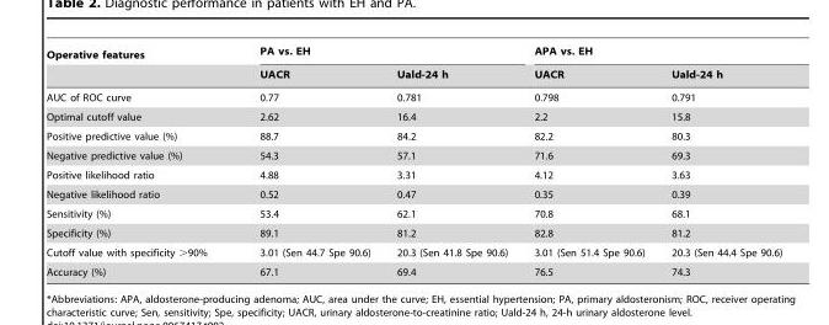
<table><thead><tr><td rowspan="2">Operative features</td><td colspan="2">PA vs. EH</td><td colspan="2">APA vs. EH</td></tr><tr><td>UACR</td><td>Uald-24 h</td><td>UACR</td><td>Uald-24 h</td></tr></thead><tbody><tr><td>AUC of ROC curve</td><td>0.77</td><td>0.781</td><td>0.798</td><td>0.791</td></tr><tr><td>Optimal cutoff value</td><td>2.62</td><td>16.4</td><td>2.2</td><td>15.8</td></tr><tr><td>Positive predictive value (%)</td><td>88.7</td><td>84.2</td><td>82.2</td><td>80.3</td></tr><tr><td>Negative predictive value (%)</td><td>54.3</td><td>57.1</td><td>71.6</td><td>69.3</td></tr><tr><td>Positive likelihood ratio</td><td>4.88</td><td>3.31</td><td>4.12</td><td>3.63</td></tr><tr><td>Negative likelihood ratio</td><td>0.52</td><td>0.47</td><td>0.35</td><td>0.39</td></tr><tr><td>Sensitivity (%)</td><td>53.4</td><td>62.1</td><td>70.8</td><td>68.1</td></tr><tr><td>Specificity (%)</td><td>89.1</td><td>81.2</td><td>82.8</td><td>81.2</td></tr><tr><td>Cutoff value with specificity &gt;90%</td><td>3.01 (Sen 44.7 Spe 90.6)</td><td>20.3 (Sen 41.8 Spe 90.6)</td><td>3.01 (Sen 51.4 Spe 90.6)</td><td>20.3 (Sen 44.4 Spe 90.6)</td></tr><tr><td>Accuracy (%)</td><td>67.1</td><td>69.4</td><td>76.5</td><td>74.3</td></tr></tbody></table>